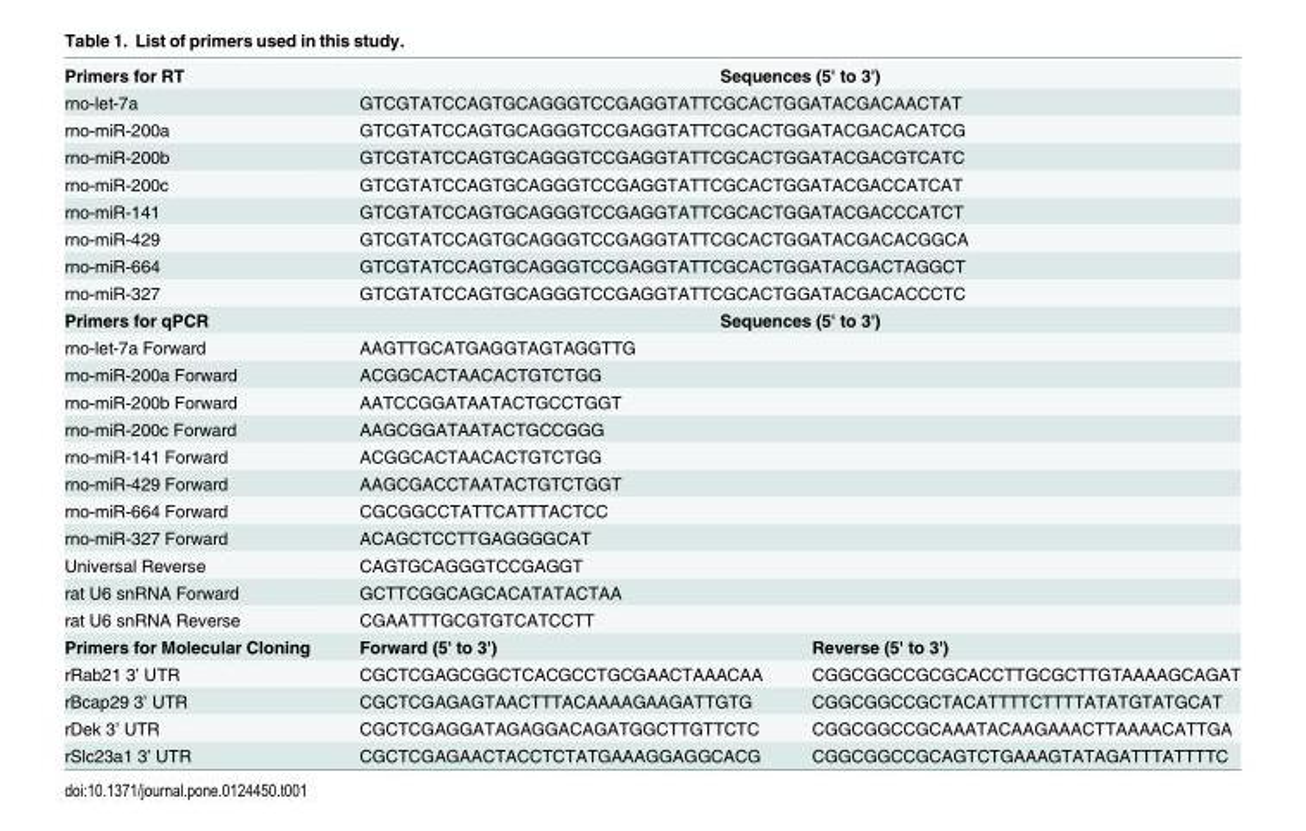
<table><tbody><tr><td>Primers for RT</td><td colspan="2">Sequences (5&#x27; to 3&#x27;)</td></tr><tr><td>rno-let-7a</td><td colspan="2">GTCGTATCCAGTGCAGGGTCCGAGGTATTCGCACTGGATACGACAACTAT</td></tr><tr><td>rno-miR-200a</td><td colspan="2">GTCGTATCCAGTGCAGGGTCCGAGGTATTCGCACTGGATACGACACATCG</td></tr><tr><td>rno-miR-200b</td><td colspan="2">GTCGTATCCAGTGCAGGGTCCGAGGTATTCGCACTGGATACGACGTCATC</td></tr><tr><td>rno-miR-200c</td><td colspan="2">GTCGTATCCAGTGCAGGGTCCGAGGTATTCGCACTGGATACGACCATCAT</td></tr><tr><td>rno-miR-141</td><td colspan="2">GTCGTATCCAGTGCAGGGTCCGAGGTATTCGCACTGGATACGACCCATCT</td></tr><tr><td>rno-miR-429</td><td colspan="2">GTCGTATCCAGTGCAGGGTCCGAGGTATTCGCACTGGATACGACACGGCA</td></tr><tr><td>rno-miR-664</td><td colspan="2">GTCGTATCCAGTGCAGGGTCCGAGGTATTCGCACTGGATACGACTAGGCT</td></tr><tr><td>rno-miR-327</td><td colspan="2">GTCGTATCCAGTGCAGGGTCCGAGGTATTCGCACTGGATACGACACCCTC</td></tr><tr><td>Primers for qPCR</td><td colspan="2">Sequences (5&#x27; to 3&#x27;)</td></tr><tr><td>rno-let-7a Forward</td><td colspan="2">AAGTTGCATGAGGTAGTAGGTTG</td></tr><tr><td>rno-miR-200a Forward</td><td colspan="2">ACGGCACTAACACTGTCTGG</td></tr><tr><td>rno-miR-200b Forward</td><td colspan="2">AATCCGGATAATACTGCCTGGT</td></tr><tr><td>rno-miR-200c Forward</td><td colspan="2">AAGCGGATAATACTGCCGGG</td></tr><tr><td>rno-miR-141 Forward</td><td colspan="2">ACGGCACTAACACTGTCTGG</td></tr><tr><td>rno-miR-429 Forward</td><td colspan="2">AAGCGACCTAATACTGTCTGGT</td></tr><tr><td>rno-miR-664 Forward</td><td colspan="2">CGCGGCCTATTCATTTACTCC</td></tr><tr><td>rno-miR-327 Forward</td><td colspan="2">ACAGCTCCTTGAGGGGCAT</td></tr><tr><td>Universal Reverse</td><td colspan="2">CAGTGCAGGGTCCGAGGT</td></tr><tr><td>rat U6 snRNA Forward</td><td colspan="2">GCTTCGGCAGCACATATACTAA</td></tr><tr><td>rat U6 snRNA Reverse</td><td colspan="2">CGAATTTGCGTGTCATCCTT</td></tr><tr><td>Primers for Molecular Cloning</td><td>Forward (5&#x27; to 3&#x27;)</td><td>Reverse (5&#x27; to 3&#x27;)</td></tr><tr><td>rRab21 3’ UTR</td><td>CGCTCGAGCGGCTCACGCCTGCGAACTAAACAA</td><td>CGGCGGCCGCGCACCTTGCGCTTGTAAAAGCAGAT</td></tr><tr><td>rBcap29 3’ UTR</td><td>CGCTCGAGAGTAACTTTACAAAAGAAGATTGTG</td><td>CGGCGGCCGCTACATTTTCTTTTATATGTATGCAT</td></tr><tr><td>rDek 3’ UTR</td><td>CGCTCGAGGATAGAGGACAGATGGCTTGTTCTC</td><td>CGGCGGCCGCAAATACAAGAAACTTAAAACATTGA</td></tr><tr><td>rSlc23a1 3’ UTR</td><td>CGCTCGAGAACTACCTCTATGAAAGGAGGCACG</td><td>CGGCGGCCGCAGTCTGAAAGTATAGATTTATTTTC</td></tr></tbody></table>